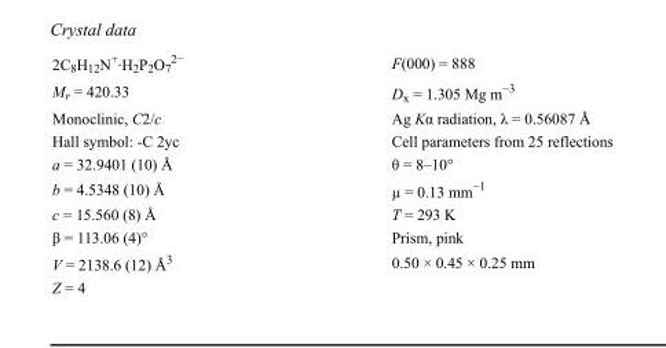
<table><tbody><tr><td>2C<sub>8</sub>H<sub>12</sub>N<sup>+</sup>·H<sub>2</sub>P<sub>2</sub>O<sub>7</sub> <sup>2−</sup></td><td>F(000) = 888</td></tr><tr><td>M<sub>r</sub> = 420.33</td><td>D<sub>x</sub> = 1.305 Mg m<sup>−3</sup></td></tr><tr><td>Monoclinic, C2/c</td><td>Ag Kα radiation, λ = 0.56087 Å</td></tr><tr><td>Hall symbol: -C 2yc</td><td>Cell parameters from 25 reflections</td></tr><tr><td>a = 32.9401 (10) Å</td><td>θ = 8–10°</td></tr><tr><td>b = 4.5348 (10) Å</td><td>µ = 0.13 mm<sup>−1</sup></td></tr><tr><td>c = 15.560 (8) Å</td><td>T = 293 K</td></tr><tr><td>β = 113.06 (4)°</td><td>Prism, pink</td></tr><tr><td>V = 2138.6 (12) Å<sup>3</sup></td><td>0.50 × 0.45 × 0.25 mm</td></tr><tr><td>Z = 4</td><td></td></tr></tbody></table>